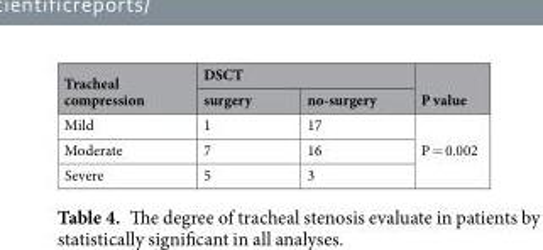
<table><thead><tr><td rowspan="2">Tracheal compression</td><td colspan="2">DSCT</td><td rowspan="2">P value</td></tr><tr><td>surgery</td><td>no-surgery</td></tr></thead><tbody><tr><td>Mild</td><td>1</td><td>17</td><td rowspan="3">P = 0.002</td></tr><tr><td>Moderate</td><td>7</td><td>16</td></tr><tr><td>Severe</td><td>5</td><td>3</td></tr></tbody></table>